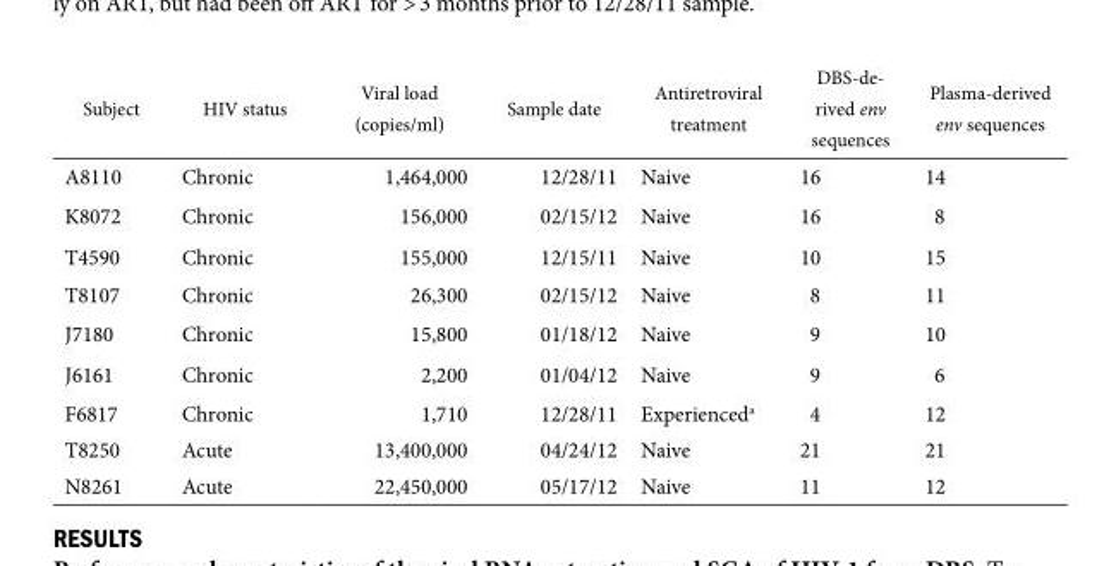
<table><thead><tr><td>Subject</td><td>HIV status</td><td>Viral load (copies/ml)</td><td>Sample date</td><td>Antiretroviral treatment</td><td>DBS-de- rived env sequences</td><td>Plasma-derived env sequences</td></tr></thead><tbody><tr><td>A8110</td><td>Chronic</td><td>1,464,000</td><td>12/28/11</td><td>Naive</td><td>16</td><td>14</td></tr><tr><td>K8072</td><td>Chronic</td><td>156,000</td><td>02/15/12</td><td>Naive</td><td>16</td><td>8</td></tr><tr><td>T4590</td><td>Chronic</td><td>155,000</td><td>12/15/11</td><td>Naive</td><td>10</td><td>15</td></tr><tr><td>T8107</td><td>Chronic</td><td>26,300</td><td>02/15/12</td><td>Naive</td><td>8</td><td>11</td></tr><tr><td>J7180</td><td>Chronic</td><td>15,800</td><td>01/18/12</td><td>Naive</td><td>9</td><td>10</td></tr><tr><td>J6161</td><td>Chronic</td><td>2,200</td><td>01/04/12</td><td>Naive</td><td>9</td><td>6</td></tr><tr><td>F6817</td><td>Chronic</td><td>1,710</td><td>12/28/11</td><td>Experienced<sup>a</sup></td><td>4</td><td>12</td></tr><tr><td>T8250</td><td>Acute</td><td>13,400,000</td><td>04/24/12</td><td>Naive</td><td>21</td><td>21</td></tr><tr><td>N8261</td><td>Acute</td><td>22,450,000</td><td>05/17/12</td><td>Naive</td><td>11</td><td>12</td></tr></tbody></table>